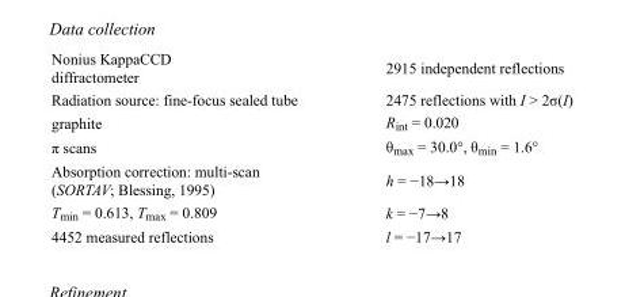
<table><tbody><tr><td>Nonius KappaCCD diffractometer</td><td>2915 independent reflections</td></tr><tr><td>Radiation source: fine-focus sealed tube</td><td>2475 reflections with I &gt; 2σ(I)</td></tr><tr><td>graphite</td><td>R<sub>int</sub> = 0.020</td></tr><tr><td>π scans</td><td>θ<sub>max</sub> = 30.0°, θ<sub>min</sub> = 1.6°</td></tr><tr><td>Absorption correction: multi-scan (SORTAV; Blessing, 1995)</td><td>h = −18→18</td></tr><tr><td>T<sub>min</sub> = 0.613, T<sub>max</sub> = 0.809</td><td>k = −7→8</td></tr><tr><td>4452 measured reflections</td><td>l = −17→17</td></tr></tbody></table>